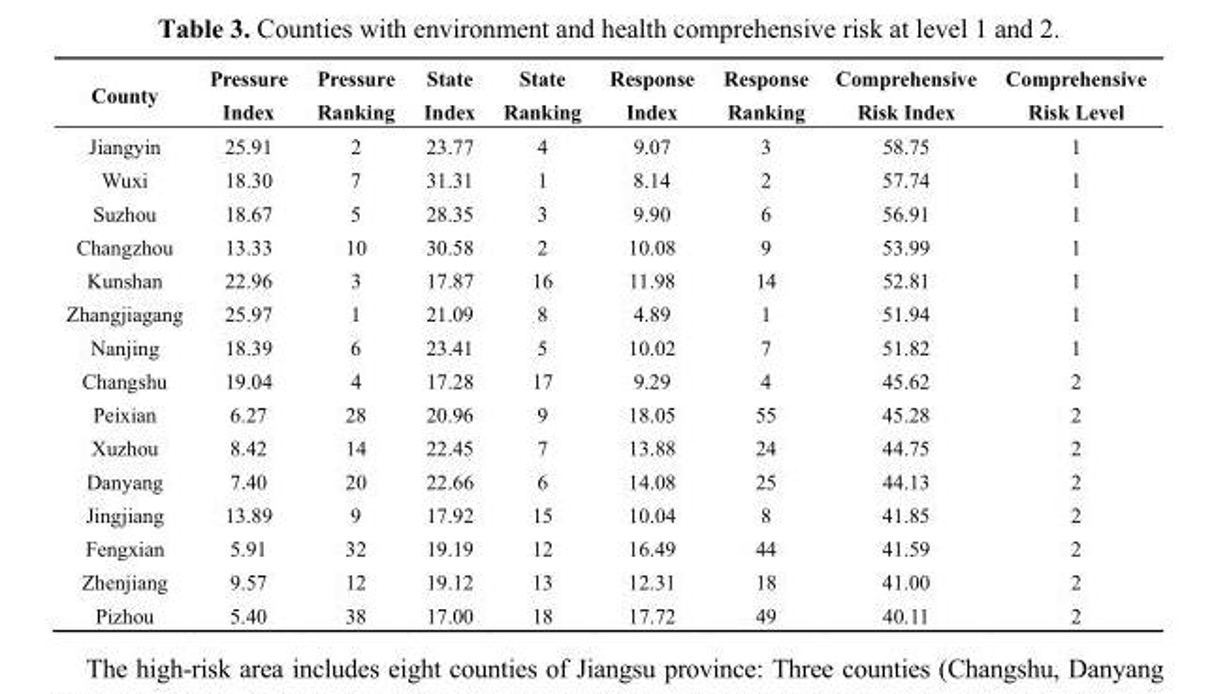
<table><thead><tr><td>County</td><td>Pressure Index</td><td>Pressure Ranking</td><td>State Index</td><td>State Ranking</td><td>Response Index</td><td>Response Ranking</td><td>Comprehensive Risk Index</td><td>Comprehensive Risk Level</td></tr></thead><tbody><tr><td>Jiangyin</td><td>25.91</td><td>2</td><td>23.77</td><td>4</td><td>9.07</td><td>3</td><td>58.75</td><td>1</td></tr><tr><td>Wuxi</td><td>18.30</td><td>7</td><td>31.31</td><td>1</td><td>8.14</td><td>2</td><td>57.74</td><td>1</td></tr><tr><td>Suzhou</td><td>18.67</td><td>5</td><td>28.35</td><td>3</td><td>9.90</td><td>6</td><td>56.91</td><td>1</td></tr><tr><td>Changzhou</td><td>13.33</td><td>10</td><td>30.58</td><td>2</td><td>10.08</td><td>9</td><td>53.99</td><td>1</td></tr><tr><td>Kunshan</td><td>22.96</td><td>3</td><td>17.87</td><td>16</td><td>11.98</td><td>14</td><td>52.81</td><td>1</td></tr><tr><td>Zhangjiagang</td><td>25.97</td><td>1</td><td>21.09</td><td>8</td><td>4.89</td><td>1</td><td>51.94</td><td>1</td></tr><tr><td>Nanjing</td><td>18.39</td><td>6</td><td>23.41</td><td>5</td><td>10.02</td><td>7</td><td>51.82</td><td>1</td></tr><tr><td>Changshu</td><td>19.04</td><td>4</td><td>17.28</td><td>17</td><td>9.29</td><td>4</td><td>45.62</td><td>2</td></tr><tr><td>Peixian</td><td>6.27</td><td>28</td><td>20.96</td><td>9</td><td>18.05</td><td>55</td><td>45.28</td><td>2</td></tr><tr><td>Xuzhou</td><td>8.42</td><td>14</td><td>22.45</td><td>7</td><td>13.88</td><td>24</td><td>44.75</td><td>2</td></tr><tr><td>Danyang</td><td>7.40</td><td>20</td><td>22.66</td><td>6</td><td>14.08</td><td>25</td><td>44.13</td><td>2</td></tr><tr><td>Jingjiang</td><td>13.89</td><td>9</td><td>17.92</td><td>15</td><td>10.04</td><td>8</td><td>41.85</td><td>2</td></tr><tr><td>Fengxian</td><td>5.91</td><td>32</td><td>19.19</td><td>12</td><td>16.49</td><td>44</td><td>41.59</td><td>2</td></tr><tr><td>Zhenjiang</td><td>9.57</td><td>12</td><td>19.12</td><td>13</td><td>12.31</td><td>18</td><td>41.00</td><td>2</td></tr><tr><td>Pizhou</td><td>5.40</td><td>38</td><td>17.00</td><td>18</td><td>17.72</td><td>49</td><td>40.11</td><td>2</td></tr></tbody></table>